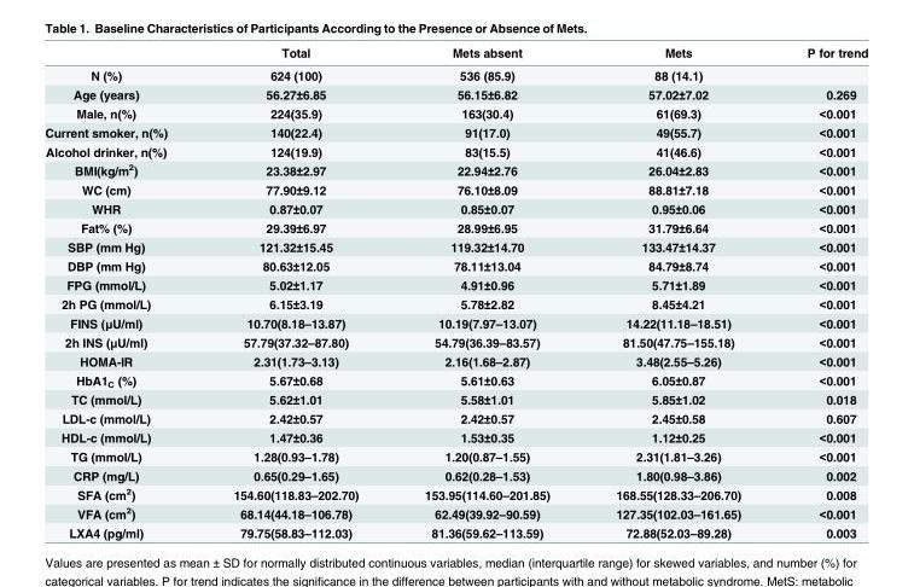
<table><thead><tr><td></td><td>Total</td><td>Mets absent</td><td>Mets</td><td>P for trend</td></tr></thead><tbody><tr><td>N (%)</td><td>624 (100)</td><td>536 (85.9)</td><td>88 (14.1)</td><td></td></tr><tr><td>Age (years)</td><td>56.27±6.85</td><td>56.15±6.82</td><td>57.02±7.02</td><td>0.269</td></tr><tr><td>Male, n(%)</td><td>224(35.9)</td><td>163(30.4)</td><td>61(69.3)</td><td>&lt;0.001</td></tr><tr><td>Current smoker, n(%)</td><td>140(22.4)</td><td>91(17.0)</td><td>49(55.7)</td><td>&lt;0.001</td></tr><tr><td>Alcohol drinker, n(%)</td><td>124(19.9)</td><td>83(15.5)</td><td>41(46.6)</td><td>&lt;0.001</td></tr><tr><td>BMI(kg/m<sup>2</sup>)</td><td>23.38±2.97</td><td>22.94±2.76</td><td>26.04±2.83</td><td>&lt;0.001</td></tr><tr><td>WC (cm)</td><td>77.90±9.12</td><td>76.10±8.09</td><td>88.81±7.18</td><td>&lt;0.001</td></tr><tr><td>WHR</td><td>0.87±0.07</td><td>0.85±0.07</td><td>0.95±0.06</td><td>&lt;0.001</td></tr><tr><td>Fat% (%)</td><td>29.39±6.97</td><td>28.99±6.95</td><td>31.79±6.64</td><td>&lt;0.001</td></tr><tr><td>SBP (mm Hg)</td><td>121.32±15.45</td><td>119.32±14.70</td><td>133.47±14.37</td><td>&lt;0.001</td></tr><tr><td>DBP (mm Hg)</td><td>80.63±12.05</td><td>78.11±13.04</td><td>84.79±8.74</td><td>&lt;0.001</td></tr><tr><td>FPG (mmol/L)</td><td>5.02±1.17</td><td>4.91±0.96</td><td>5.71±1.89</td><td>&lt;0.001</td></tr><tr><td>2h PG (mmol/L)</td><td>6.15±3.19</td><td>5.78±2.82</td><td>8.45±4.21</td><td>&lt;0.001</td></tr><tr><td>FINS (μU/ml)</td><td>10.70(8.18–13.87)</td><td>10.19(7.97–13.07)</td><td>14.22(11.18–18.51)</td><td>&lt;0.001</td></tr><tr><td>2h INS (μU/ml)</td><td>57.79(37.32–87.80)</td><td>54.79(36.39–83.57)</td><td>81.50(47.75–155.18)</td><td>&lt;0.001</td></tr><tr><td>HOMA-IR</td><td>2.31(1.73–3.13)</td><td>2.16(1.68–2.87)</td><td>3.48(2.55–5.26)</td><td>&lt;0.001</td></tr><tr><td>HbA1<sub>C</sub> (%)</td><td>5.67±0.68</td><td>5.61±0.63</td><td>6.05±0.87</td><td>&lt;0.001</td></tr><tr><td>TC (mmol/L)</td><td>5.62±1.01</td><td>5.58±1.01</td><td>5.85±1.02</td><td>0.018</td></tr><tr><td>LDL-c (mmol/L)</td><td>2.42±0.57</td><td>2.42±0.57</td><td>2.45±0.58</td><td>0.607</td></tr><tr><td>HDL-c (mmol/L)</td><td>1.47±0.36</td><td>1.53±0.35</td><td>1.12±0.25</td><td>&lt;0.001</td></tr><tr><td>TG (mmol/L)</td><td>1.28(0.93–1.78)</td><td>1.20(0.87–1.55)</td><td>2.31(1.81–3.26)</td><td>&lt;0.001</td></tr><tr><td>CRP (mg/L)</td><td>0.65(0.29–1.65)</td><td>0.62(0.28–1.53)</td><td>1.80(0.98–3.86)</td><td>0.002</td></tr><tr><td>SFA (cm<sup>2</sup>)</td><td>154.60(118.83–202.70)</td><td>153.95(114.60–201.85)</td><td>168.55(128.33–206.70)</td><td>0.008</td></tr><tr><td>VFA (cm<sup>2</sup>)</td><td>68.14(44.18–106.78)</td><td>62.49(39.92–90.59)</td><td>127.35(102.03–161.65)</td><td>&lt;0.001</td></tr><tr><td>LXA4 (pg/ml)</td><td>79.75(58.83–112.03)</td><td>81.36(59.62–113.59)</td><td>72.88(52.03–89.28)</td><td>0.003</td></tr></tbody></table>